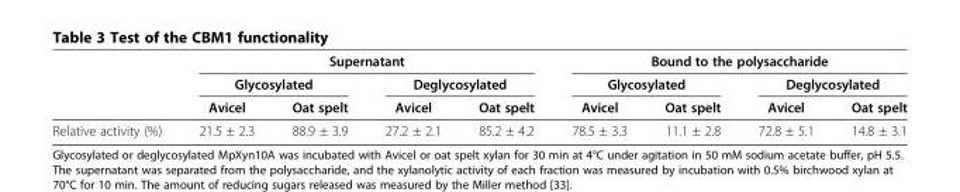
<table><thead><tr><td rowspan="3"></td><td colspan="4">Supernatant</td><td colspan="4">Bound to the polysaccharide</td></tr><tr><td colspan="2">Glycosylated</td><td colspan="2">Deglycosylated</td><td colspan="2">Glycosylated</td><td colspan="2">Deglycosylated</td></tr><tr><td>Avicel</td><td>Oat spelt</td><td>Avicel</td><td>Oat spelt</td><td>Avicel</td><td>Oat spelt</td><td>Avicel</td><td>Oat spelt</td></tr></thead><tbody><tr><td>Relative activity (%)</td><td>21.5 ± 2.3</td><td>88.9 ± 3.9</td><td>27.2 ± 2.1</td><td>85.2 ± 4.2</td><td>78.5 ± 3.3</td><td>11.1 ± 2.8</td><td>72.8 ± 5.1</td><td>14.8 ± 3.1</td></tr></tbody></table>